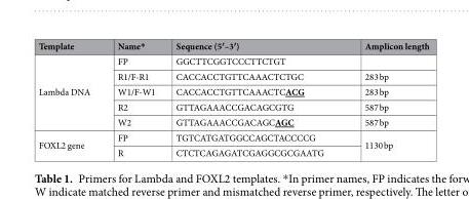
<table><thead><tr><td>Template</td><td>Name*</td><td>Sequence (5′–3′)</td><td>Amplicon length</td></tr></thead><tbody><tr><td rowspan="5">Lambda DNA</td><td>FP</td><td>GGCTTCGGTCCCTTCTGT</td><td></td></tr><tr><td>R1/F-R1</td><td>CACCACCTGTTCAAACTCTGC</td><td>283 bp</td></tr><tr><td>W1/F-W1</td><td>CACCACCTGTTCAAACTCACG</td><td>283 bp</td></tr><tr><td>R2</td><td>GTTAGAAACCGACAGCGTG</td><td>587 bp</td></tr><tr><td>W2</td><td>GTTAGAAACCGACAGCAGC</td><td>587 bp</td></tr><tr><td rowspan="2">FOXL2 gene</td><td>FP</td><td>TGTCATGATGGCCAGCTACCCCG</td><td rowspan="2">1130 bp</td></tr><tr><td>R</td><td>CTCTCAGAGATCGAGGCGCGAATG</td></tr></tbody></table>